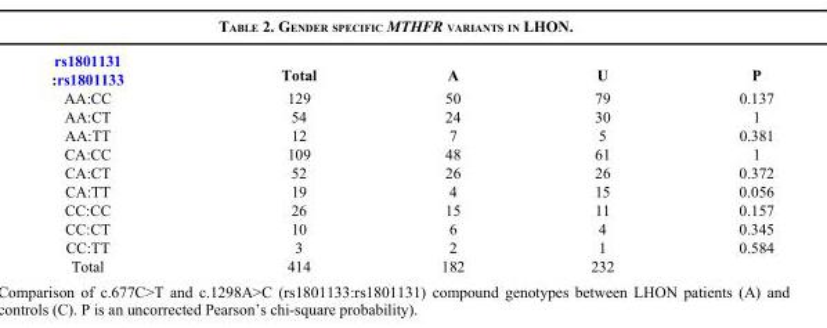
<table><thead><tr><td>rs1801131 :rs1801133</td><td>Total</td><td>A</td><td>U</td><td>P</td></tr></thead><tbody><tr><td>AA:CC</td><td>129</td><td>50</td><td>79</td><td>0.137</td></tr><tr><td>AA:CT</td><td>54</td><td>24</td><td>30</td><td>1</td></tr><tr><td>AA:TT</td><td>12</td><td>7</td><td>5</td><td>0.381</td></tr><tr><td>CA:CC</td><td>109</td><td>48</td><td>61</td><td>1</td></tr><tr><td>CA:CT</td><td>52</td><td>26</td><td>26</td><td>0.372</td></tr><tr><td>CA:TT</td><td>19</td><td>4</td><td>15</td><td>0.056</td></tr><tr><td>CC:CC</td><td>26</td><td>15</td><td>11</td><td>0.157</td></tr><tr><td>CC:CT</td><td>10</td><td>6</td><td>4</td><td>0.345</td></tr><tr><td>CC:TT</td><td>3</td><td>2</td><td>1</td><td>0.584</td></tr><tr><td>Total</td><td>414</td><td>182</td><td>232</td><td></td></tr></tbody></table>